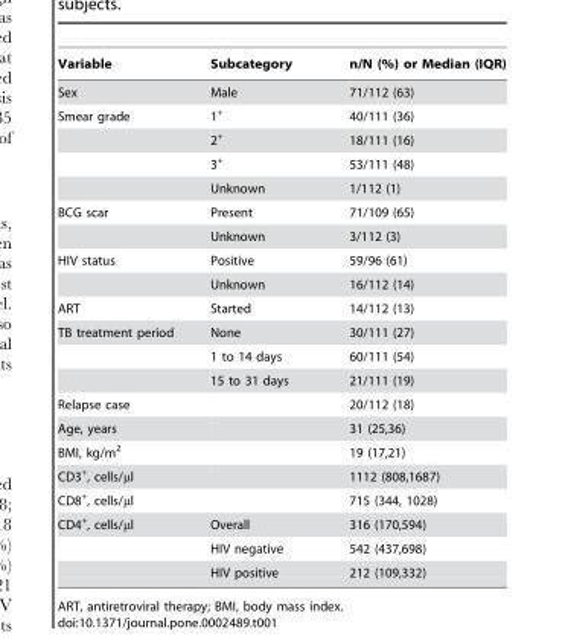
<table><thead><tr><td>Variable</td><td>Subcategory</td><td>n/N (%) or Median (IQR)</td></tr></thead><tbody><tr><td>Sex</td><td>Male</td><td>71/112 (63)</td></tr><tr><td rowspan="4">Smear grade</td><td>1<sup>+</sup></td><td>40/111 (36)</td></tr><tr><td>2<sup>+</sup></td><td>18/111 (16)</td></tr><tr><td>3<sup>+</sup></td><td>53/111 (48)</td></tr><tr><td>Unknown</td><td>1/112 (1)</td></tr><tr><td rowspan="2">BCG scar</td><td>Present</td><td>71/109 (65)</td></tr><tr><td>Unknown</td><td>3/112 (3)</td></tr><tr><td rowspan="2">HIV status</td><td>Positive</td><td>59/96 (61)</td></tr><tr><td>Unknown</td><td>16/112 (14)</td></tr><tr><td>ART</td><td>Started</td><td>14/112 (13)</td></tr><tr><td rowspan="3">TB treatment period</td><td>None</td><td>30/111 (27)</td></tr><tr><td>1 to 14 days</td><td>60/111 (54)</td></tr><tr><td>15 to 31 days</td><td>21/111 (19)</td></tr><tr><td>Relapse case</td><td></td><td>20/112 (18)</td></tr><tr><td>Age, years</td><td></td><td>31 (25,36)</td></tr><tr><td>BMI, kg/m<sup>2</sup></td><td></td><td>19 (17,21)</td></tr><tr><td>CD3<sup>+</sup>, cells/μl</td><td></td><td>1112 (808,1687)</td></tr><tr><td>CD8<sup>+</sup>, cells/μl</td><td></td><td>715 (344, 1028)</td></tr><tr><td rowspan="3">CD4<sup>+</sup>, cells/μl</td><td>Overall</td><td>316 (170,594)</td></tr><tr><td>HIV negative</td><td>542 (437,698)</td></tr><tr><td>HIV positive</td><td>212 (109,332)</td></tr></tbody></table>